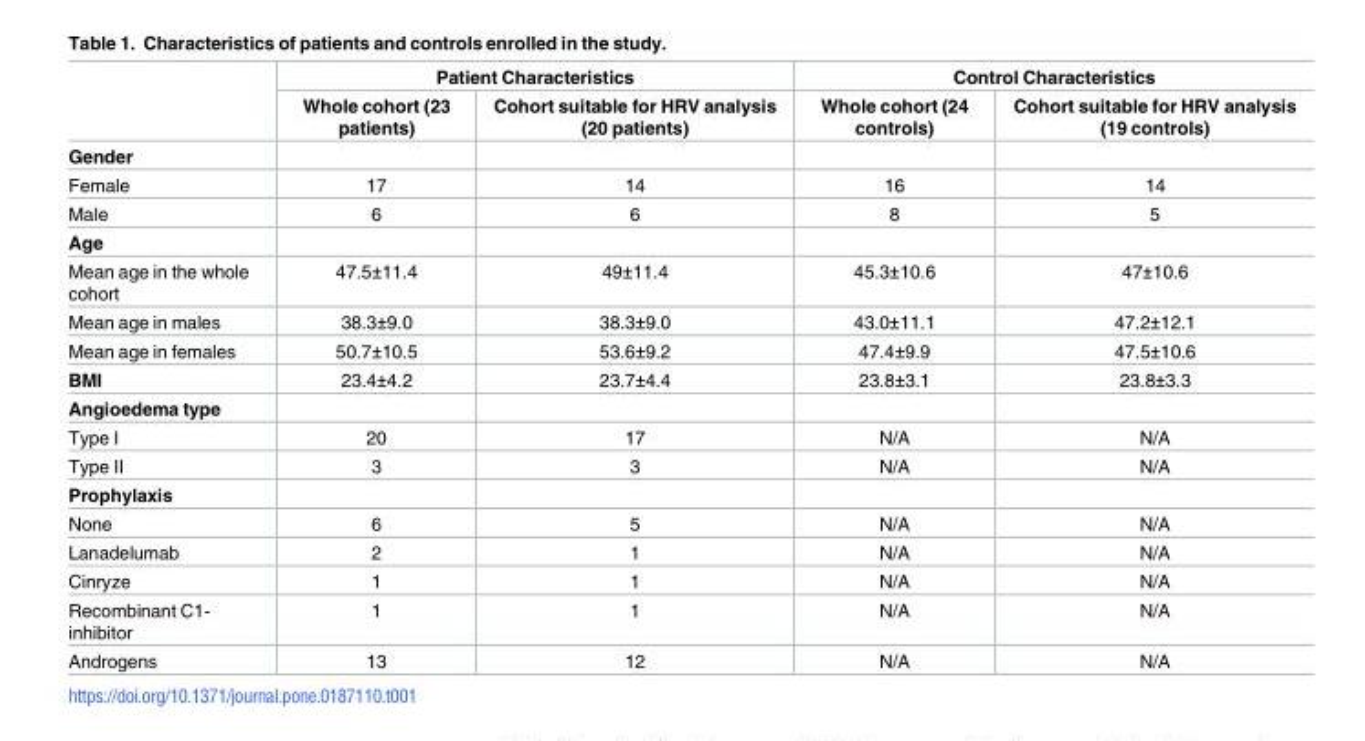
<table><thead><tr><td rowspan="2"></td><td colspan="2">Patient Characteristics</td><td colspan="2">Control Characteristics</td></tr><tr><td>Whole cohort (23 patients)</td><td>Cohort suitable for HRV analysis (20 patients)</td><td>Whole cohort (24 controls)</td><td>Cohort suitable for HRV analysis (19 controls)</td></tr></thead><tbody><tr><td colspan="5">Gender</td></tr><tr><td>Female</td><td>17</td><td>14</td><td>16</td><td>14</td></tr><tr><td>Male</td><td>6</td><td>6</td><td>8</td><td>5</td></tr><tr><td colspan="5">Age</td></tr><tr><td>Mean age in the whole cohort</td><td>47.5±11.4</td><td>49±11.4</td><td>45.3±10.6</td><td>47±10.6</td></tr><tr><td>Mean age in males</td><td>38.3±9.0</td><td>38.3±9.0</td><td>43.0±11.1</td><td>47.2±12.1</td></tr><tr><td>Mean age in females</td><td>50.7±10.5</td><td>53.6±9.2</td><td>47.4±9.9</td><td>47.5±10.6</td></tr><tr><td>BMI</td><td>23.4±4.2</td><td>23.7±4.4</td><td>23.8±3.1</td><td>23.8±3.3</td></tr><tr><td colspan="5">Angioedema type</td></tr><tr><td>Type I</td><td>20</td><td>17</td><td>N/A</td><td>N/A</td></tr><tr><td>Type II</td><td>3</td><td>3</td><td>N/A</td><td>N/A</td></tr><tr><td colspan="5">Prophylaxis</td></tr><tr><td>None</td><td>6</td><td>5</td><td>N/A</td><td>N/A</td></tr><tr><td>Lanadelumab</td><td>2</td><td>1</td><td>N/A</td><td>N/A</td></tr><tr><td>Cinryze</td><td>1</td><td>1</td><td>N/A</td><td>N/A</td></tr><tr><td>Recombinant C1- inhibitor</td><td>1</td><td>1</td><td>N/A</td><td>N/A</td></tr><tr><td>Androgens</td><td>13</td><td>12</td><td>N/A</td><td>N/A</td></tr></tbody></table>